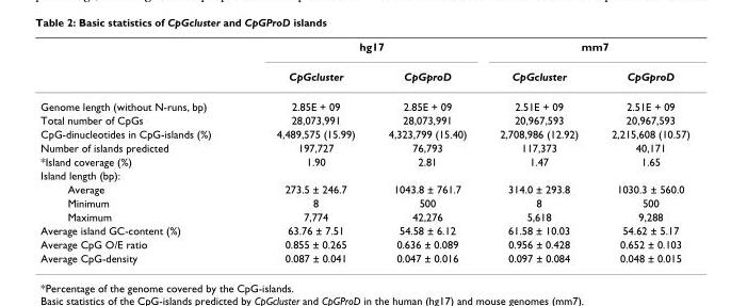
<table><thead><tr><td rowspan="2"></td><td colspan="2">hg17</td><td colspan="2">mm7</td></tr><tr><td>CpGcluster</td><td>CpGproD</td><td>CpGcluster</td><td>CpGproD</td></tr></thead><tbody><tr><td>Genome length (without N-runs, bp)</td><td>2.85E + 09</td><td>2.85E + 09</td><td>2.51E + 09</td><td>2.51E + 09</td></tr><tr><td>Total number of CpGs</td><td>28,073,991</td><td>28,073,991</td><td>20,967,593</td><td>20,967,593</td></tr><tr><td>CpG-dinucleotides in CpG-islands (%)</td><td>4,489,575 (15.99)</td><td>4,323,799 (15.40)</td><td>2,708,986 (12.92)</td><td>2,215,608 (10.57)</td></tr><tr><td>Number of islands predicted</td><td>197,727</td><td>76,793</td><td>117,373</td><td>40,171</td></tr><tr><td>*Island coverage (%)</td><td>1.90</td><td>2.81</td><td>1.47</td><td>1.65</td></tr><tr><td colspan="5">Island length (bp):</td></tr><tr><td>Average</td><td>273.5 ± 246.7</td><td>1043.8 ± 761.7</td><td>314.0 ± 293.8</td><td>1030.3 ± 560.0</td></tr><tr><td>Minimum</td><td>8</td><td>500</td><td>8</td><td>500</td></tr><tr><td>Maximum</td><td>7,774</td><td>42,276</td><td>5,618</td><td>9,288</td></tr><tr><td>Average island GC-content (%)</td><td>63.76 ± 7.51</td><td>54.58 ± 6.12</td><td>61.58 ± 10.03</td><td>54.62 ± 5.17</td></tr><tr><td>Average CpG O/E ratio</td><td>0.855 ± 0.265</td><td>0.636 ± 0.089</td><td>0.956 ± 0.428</td><td>0.652 ± 0.103</td></tr><tr><td>Average CpG-density</td><td>0.087 ± 0.041</td><td>0.047 ± 0.016</td><td>0.097 ± 0.084</td><td>0.048 ± 0.015</td></tr></tbody></table>